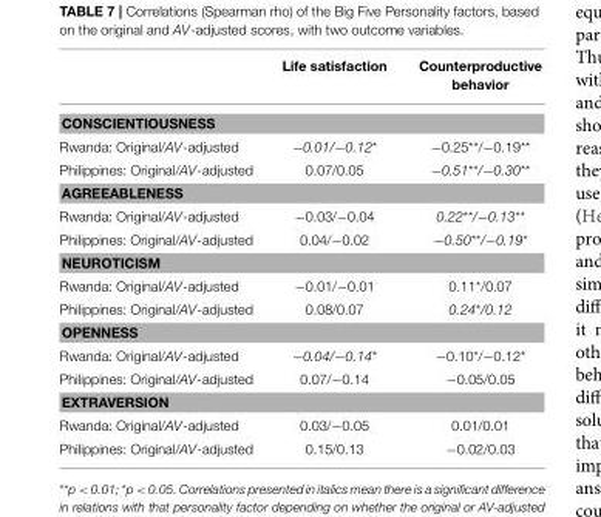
<table><thead><tr><td></td><td>Life satisfaction</td><td>Counterproductive behavior</td></tr></thead><tbody><tr><td colspan="3">CONSCIENTIOUSNESS</td></tr><tr><td>Rwanda: Original/AV-adjusted</td><td>−0.01/−0.12*</td><td>−0.25**/−0.19**</td></tr><tr><td>Philippines: Original/AV-adjusted</td><td>0.07/0.05</td><td>−0.51**/−0.30**</td></tr><tr><td colspan="3">AGREEABLENESS</td></tr><tr><td>Rwanda: Original/AV-adjusted</td><td>−0.03/−0.04</td><td>0.22**/−0.13**</td></tr><tr><td>Philippines: Original/AV-adjusted</td><td>0.04/−0.02</td><td>−0.50**/−0.19*</td></tr><tr><td colspan="3">NEUROTICISM</td></tr><tr><td>Rwanda: Original/AV-adjusted</td><td>−0.01/−0.01</td><td>0.11*/0.07</td></tr><tr><td>Philippines: Original/AV-adjusted</td><td>0.08/0.07</td><td>0.24*/0.12</td></tr><tr><td colspan="3">OPENNESS</td></tr><tr><td>Rwanda: Original/AV-adjusted</td><td>−0.04/−0.14*</td><td>−0.10*/−0.12*</td></tr><tr><td>Philippines: Original/AV-adjusted</td><td>0.07/−0.14</td><td>−0.05/0.05</td></tr><tr><td colspan="3">EXTRAVERSION</td></tr><tr><td>Rwanda: Original/AV-adjusted</td><td>0.03/−0.05</td><td>0.01/0.01</td></tr><tr><td>Philippines: Original/AV-adjusted</td><td>0.15/0.13</td><td>−0.02/0.03</td></tr></tbody></table>